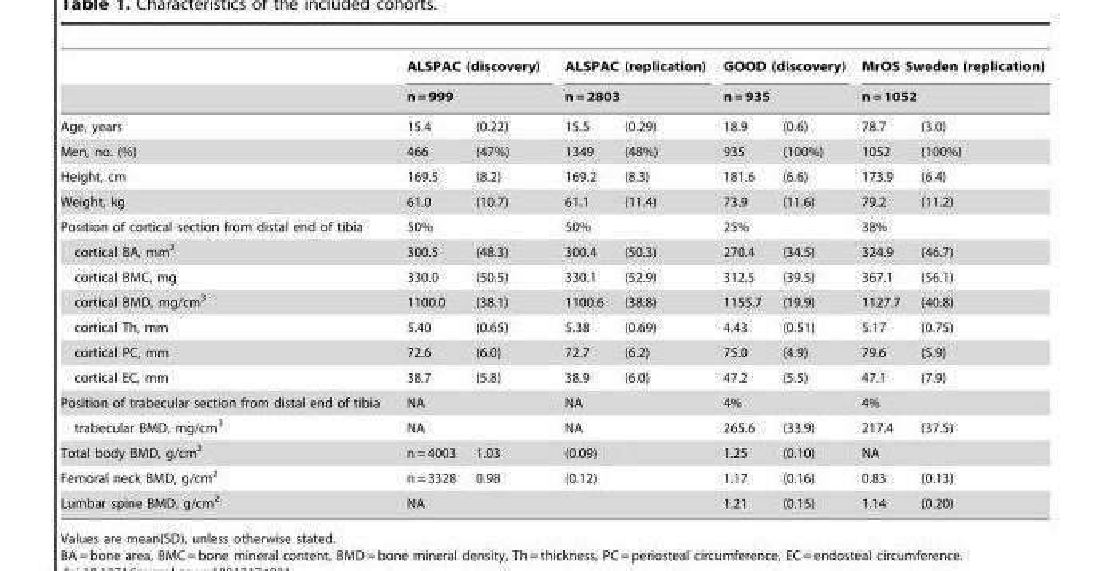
<table><thead><tr><td rowspan="3">Age, years</td><td rowspan="2" colspan="2">ALSPAC (discovery) n = 999</td><td rowspan="2" colspan="2">ALSPAC (replication) n = 2803</td><td rowspan="2" colspan="2">GOOD (discovery) n = 935</td><td rowspan="2" colspan="2">MrOS Sweden (replication) n = 1052</td></tr><tr></tr><tr><td>15.4</td><td>(0.22)</td><td>15.5</td><td>(0.29)</td><td>18.9</td><td>(0.6)</td><td>78.7</td><td>(3.0)</td></tr></thead><tbody><tr><td>Men, no. (%)</td><td>466</td><td>(47%)</td><td>1349</td><td>(48%)</td><td>935</td><td>(100%)</td><td>1052</td><td>(100%)</td></tr><tr><td>Height, cm</td><td>169.5</td><td>(8.2)</td><td>169.2</td><td>(8.3)</td><td>181.6</td><td>(6.6)</td><td>173.9</td><td>(6.4)</td></tr><tr><td>Weight, kg</td><td>61.0</td><td>(10.7)</td><td>61.1</td><td>(11.4)</td><td>73.9</td><td>(11.6)</td><td>79.2</td><td>(11.2)</td></tr><tr><td>Position of cortical section from distal end of tibia</td><td colspan="2">50%</td><td colspan="2">50%</td><td colspan="2">25%</td><td colspan="2">38%</td></tr><tr><td>cortical BA, mm<sup>2</sup></td><td>300.5</td><td>(48.3)</td><td>300.4</td><td>(50.3)</td><td>270.4</td><td>(34.5)</td><td>324.9</td><td>(46.7)</td></tr><tr><td>cortical BMC, mg</td><td>330.0</td><td>(50.5)</td><td>330.1</td><td>(52.9)</td><td>312.5</td><td>(39.5)</td><td>367.1</td><td>(56.1)</td></tr><tr><td>cortical BMD, mg/cm<sup>3</sup></td><td>1100.0</td><td>(38.1)</td><td>1100.6</td><td>(38.8)</td><td>1155.7</td><td>(19.9)</td><td>1127.7</td><td>(40.8)</td></tr><tr><td>cortical Th, mm</td><td>5.40</td><td>(0.65)</td><td>5.38</td><td>(0.69)</td><td>4.43</td><td>(0.51)</td><td>5.17</td><td>(0.75)</td></tr><tr><td>cortical PC, mm</td><td>72.6</td><td>(6.0)</td><td>72.7</td><td>(6.2)</td><td>75.0</td><td>(4.9)</td><td>79.6</td><td>(5.9)</td></tr><tr><td>cortical EC, mm</td><td>38.7</td><td>(5.8)</td><td>38.9</td><td>(6.0)</td><td>47.2</td><td>(5.5)</td><td>47.1</td><td>(7.9)</td></tr><tr><td>Position of trabecular section from distal end of tibia</td><td colspan="2">NA</td><td colspan="2">NA</td><td colspan="2">4%</td><td colspan="2">4%</td></tr><tr><td>trabecular BMD, mg/cm<sup>3</sup></td><td colspan="2">NA</td><td colspan="2">NA</td><td>265.6</td><td>(33.9)</td><td>217.4</td><td>(37.5)</td></tr><tr><td>Total body BMD, g/cm<sup>2</sup></td><td>n = 4003</td><td>1.03</td><td>(0.09)</td><td></td><td>1.25</td><td>(0.10)</td><td colspan="2">NA</td></tr><tr><td>Femoral neck BMD, g/cm<sup>2</sup></td><td>n = 3328</td><td>0.98</td><td>(0.12)</td><td></td><td>1.17</td><td>(0.16)</td><td>0.83</td><td>(0.13)</td></tr><tr><td>Lumbar spine BMD, g/cm<sup>2</sup></td><td colspan="4">NA</td><td>1.21</td><td>(0.15)</td><td>1.14</td><td>(0.20)</td></tr></tbody></table>